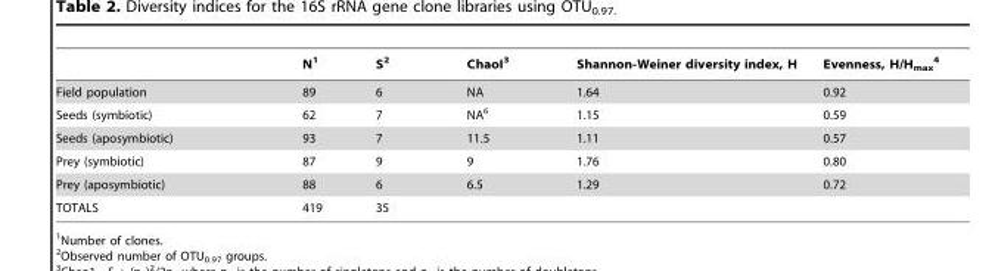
<table><thead><tr><td></td><td>N<sup>1</sup></td><td>S<sup>2</sup></td><td>ChaoI<sup>3</sup></td><td>Shannon-Weiner diversity index, H</td><td>Evenness, H/H<sub>max</sub> 4</td></tr></thead><tbody><tr><td>Field population</td><td>89</td><td>6</td><td>NA</td><td>1.64</td><td>0.92</td></tr><tr><td>Seeds (symbiotic)</td><td>62</td><td>7</td><td>NA<sup>6</sup></td><td>1.15</td><td>0.59</td></tr><tr><td>Seeds (aposymbiotic)</td><td>93</td><td>7</td><td>11.5</td><td>1.11</td><td>0.57</td></tr><tr><td>Prey (symbiotic)</td><td>87</td><td>9</td><td>9</td><td>1.76</td><td>0.80</td></tr><tr><td>Prey (aposymbiotic)</td><td>88</td><td>6</td><td>6.5</td><td>1.29</td><td>0.72</td></tr><tr><td>TOTALS</td><td>419</td><td>35</td><td></td><td></td><td></td></tr></tbody></table>